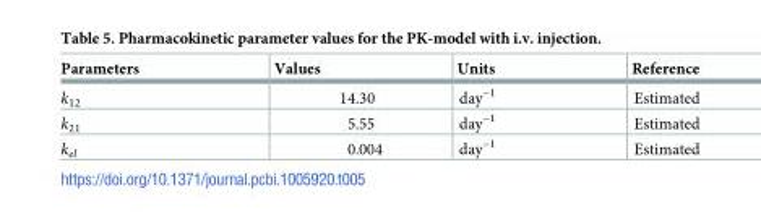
<table><thead><tr><td>Parameters</td><td>Values</td><td>Units</td><td>Reference</td></tr></thead><tbody><tr><td>k<sub>12</sub></td><td>14.30</td><td>day<sup>−1</sup></td><td>Estimated</td></tr><tr><td>k<sub>21</sub></td><td>5.55</td><td>day<sup>−1</sup></td><td>Estimated</td></tr><tr><td>k<sub>el</sub></td><td>0.004</td><td>day<sup>−1</sup></td><td>Estimated</td></tr></tbody></table>